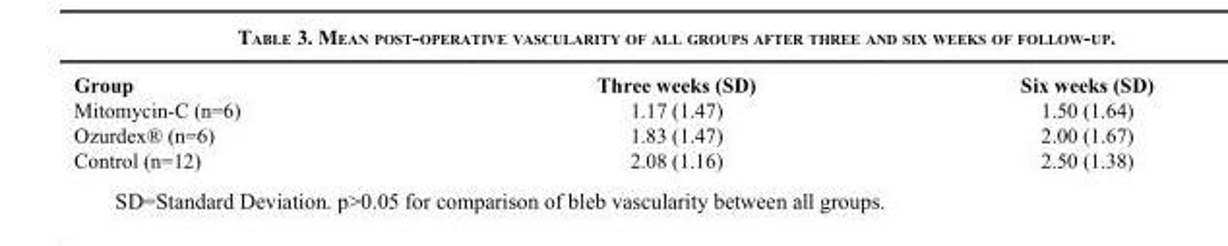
<table><thead><tr><td>Group</td><td>Three weeks (SD)</td><td>Six weeks (SD)</td></tr></thead><tbody><tr><td>Mitomycin-C (n=6)</td><td>1.17 (1.47)</td><td>1.50 (1.64)</td></tr><tr><td>Ozurdex® (n=6)</td><td>1.83 (1.47)</td><td>2.00 (1.67)</td></tr><tr><td>Control (n=12)</td><td>2.08 (1.16)</td><td>2.50 (1.38)</td></tr></tbody></table>